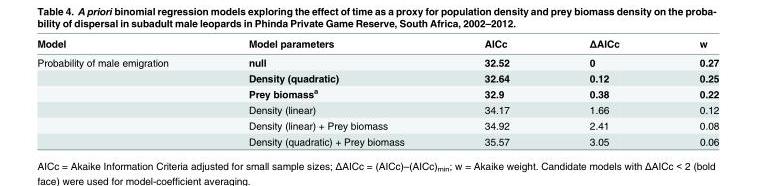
<table><thead><tr><td>Model</td><td>Model parameters</td><td>AICc</td><td>ΔAICc</td><td>w</td></tr></thead><tbody><tr><td rowspan="6">Probability of male emigration</td><td>null</td><td>32.52</td><td>0</td><td>0.27</td></tr><tr><td>Density (quadratic)</td><td>32.64</td><td>0.12</td><td>0.25</td></tr><tr><td>Prey biomass<sup>a</sup></td><td>32.9</td><td>0.38</td><td>0.22</td></tr><tr><td>Density (linear)</td><td>34.17</td><td>1.66</td><td>0.12</td></tr><tr><td>Density (linear) + Prey biomass</td><td>34.92</td><td>2.41</td><td>0.08</td></tr><tr><td>Density (quadratic) + Prey biomass</td><td>35.57</td><td>3.05</td><td>0.06</td></tr></tbody></table>